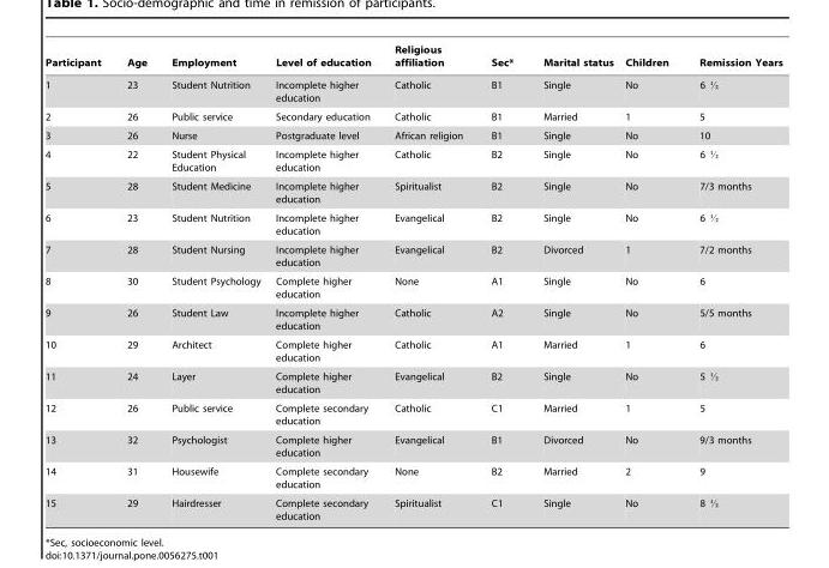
<table><thead><tr><td>Participant</td><td>Age</td><td>Employment</td><td>Level of education</td><td>Religious affiliation</td><td>Sec*</td><td>Marital status</td><td>Children</td><td>Remission Years</td></tr></thead><tbody><tr><td>1</td><td>23</td><td>Student Nutrition</td><td>Incomplete higher education</td><td>Catholic</td><td>B1</td><td>Single</td><td>No</td><td>6 K</td></tr><tr><td>2</td><td>26</td><td>Public service</td><td>Secondary education</td><td>Catholic</td><td>B1</td><td>Married</td><td>1</td><td>5</td></tr><tr><td>3</td><td>26</td><td>Nurse</td><td>Postgraduate level</td><td>African religion</td><td>B1</td><td>Single</td><td>No</td><td>10</td></tr><tr><td>4</td><td>22</td><td>Student Physical Education</td><td>Incomplete higher education</td><td>Catholic</td><td>B2</td><td>Single</td><td>No</td><td>6 K</td></tr><tr><td>5</td><td>28</td><td>Student Medicine</td><td>Incomplete higher education</td><td>Spiritualist</td><td>B2</td><td>Single</td><td>No</td><td>7/3 months</td></tr><tr><td>6</td><td>23</td><td>Student Nutrition</td><td>Incomplete higher education</td><td>Evangelical</td><td>B2</td><td>Single</td><td>No</td><td>6 K</td></tr><tr><td>7</td><td>28</td><td>Student Nursing</td><td>Incomplete higher education</td><td>Evangelical</td><td>B2</td><td>Divorced</td><td>1</td><td>7/2 months</td></tr><tr><td>8</td><td>30</td><td>Student Psychology</td><td>Complete higher education</td><td>None</td><td>A1</td><td>Single</td><td>No</td><td>6</td></tr><tr><td>9</td><td>26</td><td>Student Law</td><td>Incomplete higher education</td><td>Catholic</td><td>A2</td><td>Single</td><td>No</td><td>5/5 months</td></tr><tr><td>10</td><td>29</td><td>Architect</td><td>Complete higher education</td><td>Catholic</td><td>A1</td><td>Married</td><td>1</td><td>6</td></tr><tr><td>11</td><td>24</td><td>Layer</td><td>Complete higher education</td><td>Evangelical</td><td>B2</td><td>Single</td><td>No</td><td>5 K</td></tr><tr><td>12</td><td>26</td><td>Public service</td><td>Complete secondary education</td><td>Catholic</td><td>C1</td><td>Married</td><td>1</td><td>5</td></tr><tr><td>13</td><td>32</td><td>Psychologist</td><td>Complete higher education</td><td>Evangelical</td><td>B1</td><td>Divorced</td><td>No</td><td>9/3 months</td></tr><tr><td>14</td><td>31</td><td>Housewife</td><td>Complete secondary education</td><td>None</td><td>B2</td><td>Married</td><td>2</td><td>9</td></tr><tr><td>15</td><td>29</td><td>Hairdresser</td><td>Complete secondary education</td><td>Spiritualist</td><td>C1</td><td>Single</td><td>No</td><td>8 K</td></tr></tbody></table>